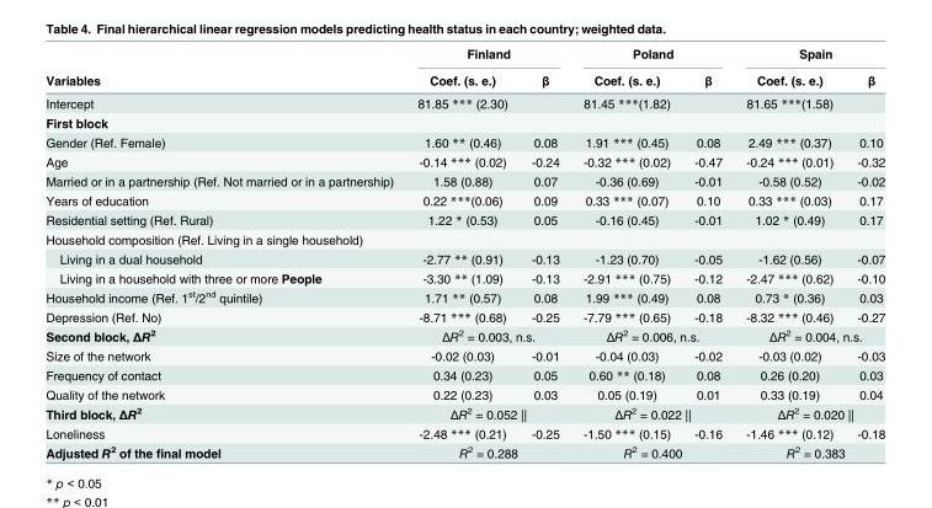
<table><thead><tr><td rowspan="2">Variables</td><td colspan="2">Finland</td><td colspan="2">Poland</td><td colspan="2">Spain</td></tr><tr><td>Coef. (s. e.)</td><td>β</td><td>Coef. (s. e.)</td><td>β</td><td>Coef. (s. e.)</td><td>β</td></tr></thead><tbody><tr><td>Intercept</td><td>81.85 *** (2.30)</td><td></td><td>81.45 ***(1.82)</td><td></td><td>81.65 ***(1.58)</td><td></td></tr><tr><td colspan="7">First block</td></tr><tr><td>Gender (Ref. Female)</td><td>1.60 ** (0.46)</td><td>0.08</td><td>1.91 *** (0.45)</td><td>0.08</td><td>2.49 *** (0.37)</td><td>0.10</td></tr><tr><td>Age</td><td>-0.14 *** (0.02)</td><td>-0.24</td><td>-0.32 *** (0.02)</td><td>-0.47</td><td>-0.24 *** (0.01)</td><td>-0.32</td></tr><tr><td>Married or in a partnership (Ref. Not married or in a partnership)</td><td>1.58 (0.88)</td><td>0.07</td><td>-0.36 (0.69)</td><td>-0.01</td><td>-0.58 (0.52)</td><td>-0.02</td></tr><tr><td>Years of education</td><td>0.22 ***(0.06)</td><td>0.09</td><td>0.33 *** (0.07)</td><td>0.10</td><td>0.33 *** (0.03)</td><td>0.17</td></tr><tr><td>Residential setting (Ref. Rural)</td><td>1.22 * (0.53)</td><td>0.05</td><td>-0.16 (0.45)</td><td>-0.01</td><td>1.02 * (0.49)</td><td>0.17</td></tr><tr><td colspan="7">Household composition (Ref. Living in a single household)</td></tr><tr><td>Living in a dual household</td><td>-2.77 ** (0.91)</td><td>-0.13</td><td>-1.23 (0.70)</td><td>-0.05</td><td>-1.62 (0.56)</td><td>-0.07</td></tr><tr><td>Living in a household with three or more People</td><td>-3.30 ** (1.09)</td><td>-0.13</td><td>-2.91 *** (0.75)</td><td>-0.12</td><td>-2.47 *** (0.62)</td><td>-0.10</td></tr><tr><td>Household income (Ref. 1<sup>st</sup>/2<sup>nd</sup> quintile)</td><td>1.71 ** (0.57)</td><td>0.08</td><td>1.99 *** (0.49)</td><td>0.08</td><td>0.73 * (0.36)</td><td>0.03</td></tr><tr><td>Depression (Ref. No)</td><td>-8.71 *** (0.68)</td><td>-0.25</td><td>-7.79 *** (0.65)</td><td>-0.18</td><td>-8.32 *** (0.46)</td><td>-0.27</td></tr><tr><td>Second block, ΔR<sup>2</sup></td><td colspan="2">ΔR<sup>2</sup> = 0.003, n.s.</td><td colspan="2">ΔR<sup>2</sup> = 0.006, n.s.</td><td colspan="2">ΔR<sup>2</sup> = 0.004, n.s.</td></tr><tr><td>Size of the network</td><td>-0.02 (0.03)</td><td>-0.01</td><td>-0.04 (0.03)</td><td>-0.02</td><td>-0.03 (0.02)</td><td>-0.03</td></tr><tr><td>Frequency of contact</td><td>0.34 (0.23)</td><td>0.05</td><td>0.60 ** (0.18)</td><td>0.08</td><td>0.26 (0.20)</td><td>0.03</td></tr><tr><td>Quality of the network</td><td>0.22 (0.23)</td><td>0.03</td><td>0.05 (0.19)</td><td>0.01</td><td>0.33 (0.19)</td><td>0.04</td></tr><tr><td>Third block, ΔR<sup>2</sup></td><td colspan="2">ΔR<sup>2</sup> = 0.052 ||</td><td colspan="2">ΔR<sup>2</sup> = 0.022 ||</td><td colspan="2">ΔR<sup>2</sup> = 0.020 ||</td></tr><tr><td>Loneliness</td><td>-2.48 *** (0.21)</td><td>-0.25</td><td>-1.50 *** (0.15)</td><td>-0.16</td><td>-1.46 *** (0.12)</td><td>-0.18</td></tr><tr><td>Adjusted R<sup>2</sup> of the final model</td><td colspan="2">R<sup>2</sup> = 0.288</td><td colspan="2">R<sup>2</sup> = 0.400</td><td colspan="2">R<sup>2</sup> = 0.383</td></tr></tbody></table>